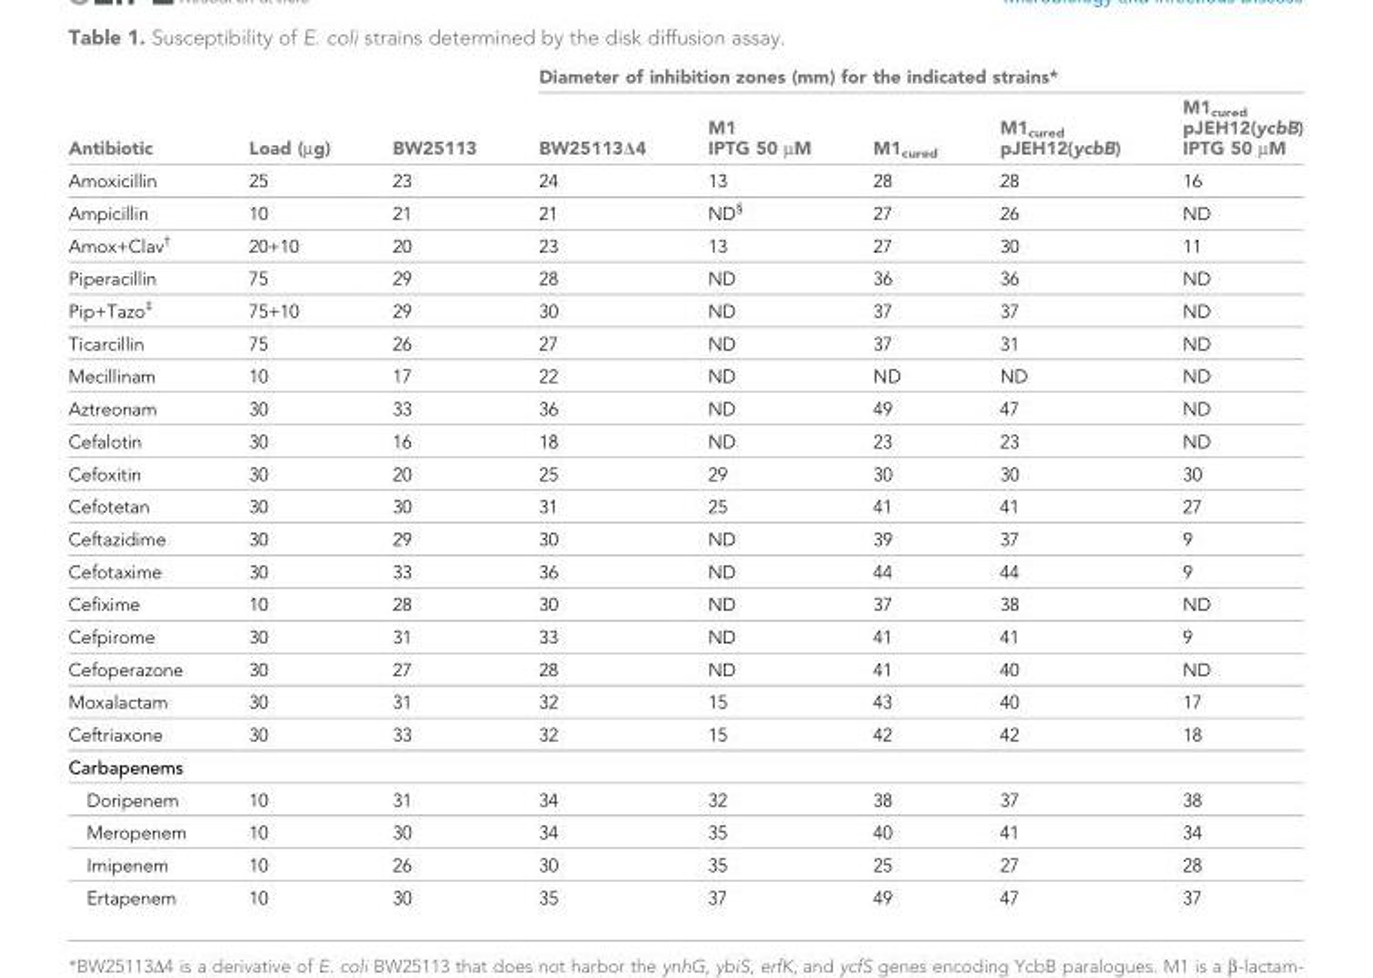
<table><thead><tr><td rowspan="2">Antibiotic</td><td rowspan="2">Load (µg)</td><td rowspan="2">BW25113</td><td colspan="5">Diameter of inhibition zones (mm) for the indicated strains*</td></tr><tr><td>BW25113Δ4</td><td>M1 IPTG 50 µM</td><td>M1<sub>cured</sub></td><td>M1<sub>cured</sub> pJEH12(ycbB)</td><td>M1<sub>cured</sub> pJEH12(ycbB) IPTG 50 µM</td></tr></thead><tbody><tr><td>Amoxicillin</td><td>25</td><td>23</td><td>24</td><td>13</td><td>28</td><td>28</td><td>16</td></tr><tr><td>Ampicillin</td><td>10</td><td>21</td><td>21</td><td>ND<sup>§</sup></td><td>27</td><td>26</td><td>ND</td></tr><tr><td>Amox+Clav<sup>†</sup></td><td>20+10</td><td>20</td><td>23</td><td>13</td><td>27</td><td>30</td><td>11</td></tr><tr><td>Piperacillin</td><td>75</td><td>29</td><td>28</td><td>ND</td><td>36</td><td>36</td><td>ND</td></tr><tr><td>Pip+Tazo<sup>‡</sup></td><td>75+10</td><td>29</td><td>30</td><td>ND</td><td>37</td><td>37</td><td>ND</td></tr><tr><td>Ticarcillin</td><td>75</td><td>26</td><td>27</td><td>ND</td><td>37</td><td>31</td><td>ND</td></tr><tr><td>Mecillinam</td><td>10</td><td>17</td><td>22</td><td>ND</td><td>ND</td><td>ND</td><td>ND</td></tr><tr><td>Aztreonam</td><td>30</td><td>33</td><td>36</td><td>ND</td><td>49</td><td>47</td><td>ND</td></tr><tr><td>Cefalotin</td><td>30</td><td>16</td><td>18</td><td>ND</td><td>23</td><td>23</td><td>ND</td></tr><tr><td>Cefoxitin</td><td>30</td><td>20</td><td>25</td><td>29</td><td>30</td><td>30</td><td>30</td></tr><tr><td>Cefotetan</td><td>30</td><td>30</td><td>31</td><td>25</td><td>41</td><td>41</td><td>27</td></tr><tr><td>Ceftazidime</td><td>30</td><td>29</td><td>30</td><td>ND</td><td>39</td><td>37</td><td>9</td></tr><tr><td>Cefotaxime</td><td>30</td><td>33</td><td>36</td><td>ND</td><td>44</td><td>44</td><td>9</td></tr><tr><td>Cefixime</td><td>10</td><td>28</td><td>30</td><td>ND</td><td>37</td><td>38</td><td>ND</td></tr><tr><td>Cefpirome</td><td>30</td><td>31</td><td>33</td><td>ND</td><td>41</td><td>41</td><td>9</td></tr><tr><td>Cefoperazone</td><td>30</td><td>27</td><td>28</td><td>ND</td><td>41</td><td>40</td><td>ND</td></tr><tr><td>Moxalactam</td><td>30</td><td>31</td><td>32</td><td>15</td><td>43</td><td>40</td><td>17</td></tr><tr><td>Ceftriaxone</td><td>30</td><td>33</td><td>32</td><td>15</td><td>42</td><td>42</td><td>18</td></tr><tr><td colspan="8">Carbapenems</td></tr><tr><td>Doripenem</td><td>10</td><td>31</td><td>34</td><td>32</td><td>38</td><td>37</td><td>38</td></tr><tr><td>Meropenem</td><td>10</td><td>30</td><td>34</td><td>35</td><td>40</td><td>41</td><td>34</td></tr><tr><td>Imipenem</td><td>10</td><td>26</td><td>30</td><td>35</td><td>25</td><td>27</td><td>28</td></tr><tr><td>Ertapenem</td><td>10</td><td>30</td><td>35</td><td>37</td><td>49</td><td>47</td><td>37</td></tr></tbody></table>